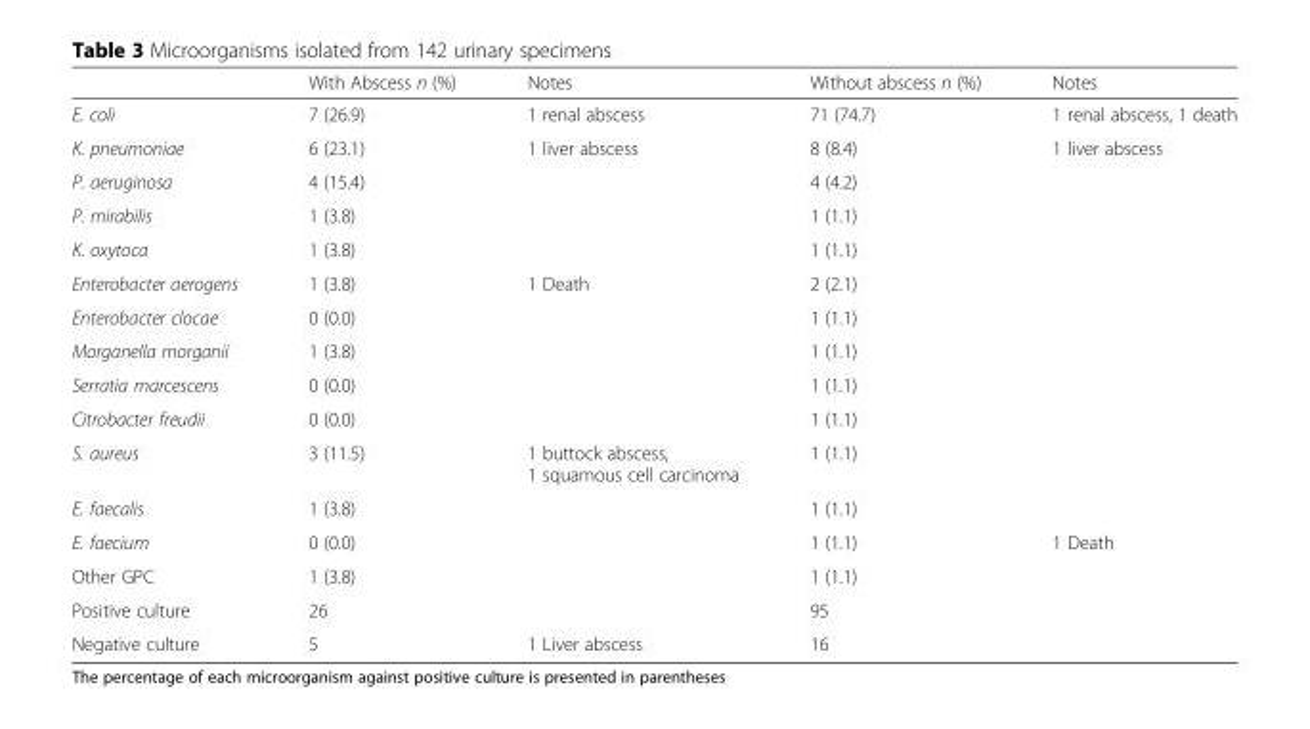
<table><thead><tr><td></td><td>With Abscess n (%)</td><td>Notes</td><td>Without abscess n (%)</td><td>Notes</td></tr></thead><tbody><tr><td>E. coli</td><td>7 (26.9)</td><td>1 renal abscess</td><td>71 (74.7)</td><td>1 renal abscess, 1 death</td></tr><tr><td>K. pneumoniae</td><td>6 (23.1)</td><td>1 liver abscess</td><td>8 (8.4)</td><td>1 liver abscess</td></tr><tr><td>P. aeruginosa</td><td>4 (15.4)</td><td></td><td>4 (4.2)</td><td></td></tr><tr><td>P. mirabilis</td><td>1 (3.8)</td><td></td><td>1 (1.1)</td><td></td></tr><tr><td>K. oxytoca</td><td>1 (3.8)</td><td></td><td>1 (1.1)</td><td></td></tr><tr><td>Enterobacter aerogens</td><td>1 (3.8)</td><td>1 Death</td><td>2 (2.1)</td><td></td></tr><tr><td>Enterobacter clocae</td><td>0 (0.0)</td><td></td><td>1 (1.1)</td><td></td></tr><tr><td>Morganella morganii</td><td>1 (3.8)</td><td></td><td>1 (1.1)</td><td></td></tr><tr><td>Serratia marcescens</td><td>0 (0.0)</td><td></td><td>1 (1.1)</td><td></td></tr><tr><td>Citrobacter freudii</td><td>0 (0.0)</td><td></td><td>1 (1.1)</td><td></td></tr><tr><td>S. aureus</td><td>3 (11.5)</td><td>1 buttock abscess, 1 squamous cell carcinoma</td><td>1 (1.1)</td><td></td></tr><tr><td>E. faecalis</td><td>1 (3.8)</td><td></td><td>1 (1.1)</td><td></td></tr><tr><td>E. faecium</td><td>0 (0.0)</td><td></td><td>1 (1.1)</td><td>1 Death</td></tr><tr><td>Other GPC</td><td>1 (3.8)</td><td></td><td>1 (1.1)</td><td></td></tr><tr><td>Positive culture</td><td>26</td><td></td><td>95</td><td></td></tr><tr><td>Negative culture</td><td>5</td><td>1 Liver abscess</td><td>16</td><td></td></tr></tbody></table>